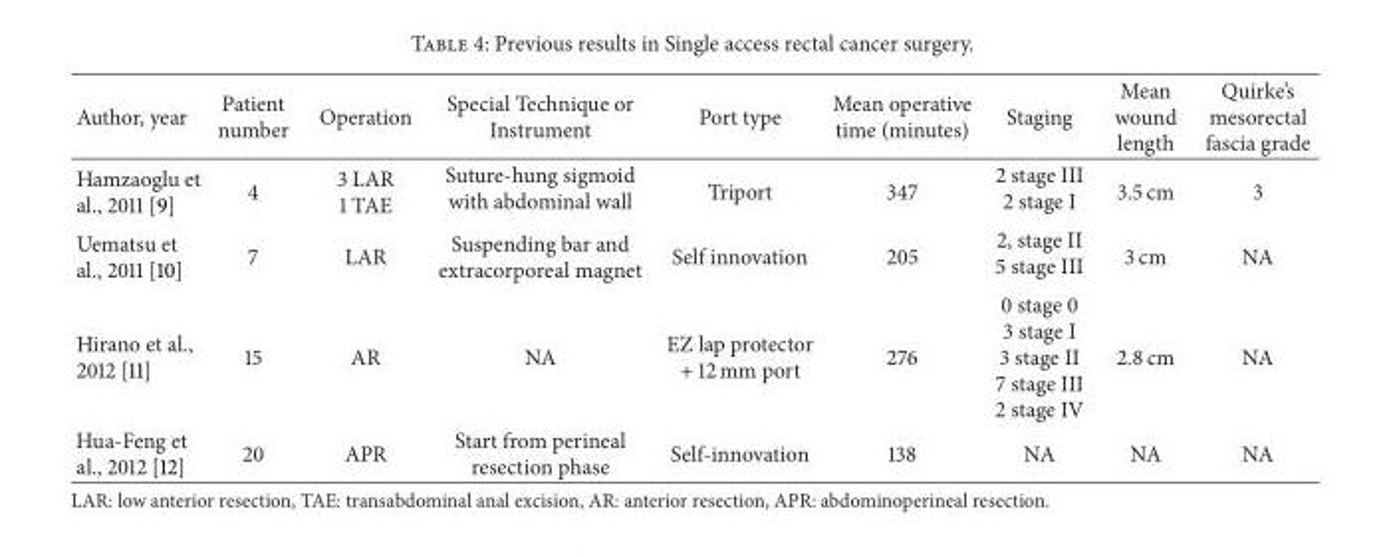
<table><thead><tr><td>Author, year</td><td>Patient number</td><td>Operation</td><td>Special Technique or Instrument</td><td>Port type</td><td>Mean operative time (minutes)</td><td>Staging</td><td>Mean wound length</td><td>Quirke’s mesorectal fascia grade</td></tr></thead><tbody><tr><td>Hamzaoglu et al., 2011 [9]</td><td>4</td><td>3 LAR 1 TAE</td><td>Suture-hung sigmoid with abdominal wall</td><td>Triport</td><td>347</td><td>2 stage III 2 stage I</td><td>3.5 cm</td><td>3</td></tr><tr><td>Uematsu et al., 2011 [10]</td><td>7</td><td>LAR</td><td>Suspending bar and extracorporeal magnet</td><td>Self innovation</td><td>205</td><td>2, stage II 5 stage III</td><td>3 cm</td><td>NA</td></tr><tr><td>Hirano et al., 2012 [11]</td><td>15</td><td>AR</td><td>NA</td><td>EZ lap protector + 12 mm port</td><td>276</td><td>0 stage 0 3 stage I 3 stage II 7 stage III 2 stage IV</td><td>2.8 cm</td><td>NA</td></tr><tr><td>Hua-Feng et al., 2012 [12]</td><td>20</td><td>APR</td><td>Start from perineal resection phase</td><td>Self-innovation</td><td>138</td><td>NA</td><td>NA</td><td>NA</td></tr></tbody></table>